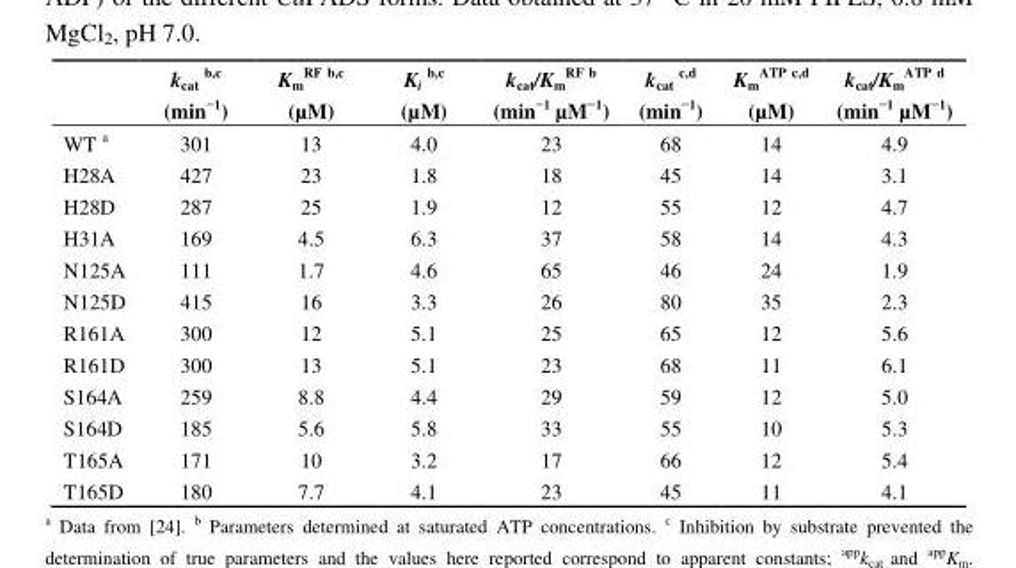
<table><thead><tr><td></td><td>k<sub>cat</sub> <sup>b</sup>,<sup>c</sup> (min<sup>−1</sup>)</td><td>K<sub>m</sub> <sup>RF</sup> b,c (µM)</td><td>K<sub>i</sub> <sup>b</sup>,<sup>c</sup> (µM)</td><td>k<sub>cat</sub>/K<sub>m</sub> <sup>RF</sup> b (min<sup>−1</sup> µM<sup>−1</sup>)</td><td>k<sub>cat</sub> <sup>c</sup>,<sup>d</sup> (min<sup>−1</sup>)</td><td>K<sub>m</sub> <sup>ATP</sup> c,d (µM)</td><td>k<sub>cat</sub>/K<sub>m</sub> <sup>ATP</sup> d (min<sup>−1</sup> µM<sup>−1</sup>)</td></tr></thead><tbody><tr><td>WT a</td><td>301</td><td>13</td><td>4.0</td><td>23</td><td>68</td><td>14</td><td>4.9</td></tr><tr><td>H28A</td><td>427</td><td>23</td><td>1.8</td><td>18</td><td>45</td><td>14</td><td>3.1</td></tr><tr><td>H28D</td><td>287</td><td>25</td><td>1.9</td><td>12</td><td>55</td><td>12</td><td>4.7</td></tr><tr><td>H31A</td><td>169</td><td>4.5</td><td>6.3</td><td>37</td><td>58</td><td>14</td><td>4.3</td></tr><tr><td>N125A</td><td>111</td><td>1.7</td><td>4.6</td><td>65</td><td>46</td><td>24</td><td>1.9</td></tr><tr><td>N125D</td><td>415</td><td>16</td><td>3.3</td><td>26</td><td>80</td><td>35</td><td>2.3</td></tr><tr><td>R161A</td><td>300</td><td>12</td><td>5.1</td><td>25</td><td>65</td><td>12</td><td>5.6</td></tr><tr><td>R161D</td><td>300</td><td>13</td><td>5.1</td><td>23</td><td>68</td><td>11</td><td>6.1</td></tr><tr><td>S164A</td><td>259</td><td>8.8</td><td>4.4</td><td>29</td><td>59</td><td>12</td><td>5.0</td></tr><tr><td>S164D</td><td>185</td><td>5.6</td><td>5.8</td><td>33</td><td>55</td><td>10</td><td>5.3</td></tr><tr><td>T165A</td><td>171</td><td>10</td><td>3.2</td><td>17</td><td>66</td><td>12</td><td>5.4</td></tr><tr><td>T165D</td><td>180</td><td>7.7</td><td>4.1</td><td>23</td><td>45</td><td>11</td><td>4.1</td></tr></tbody></table>